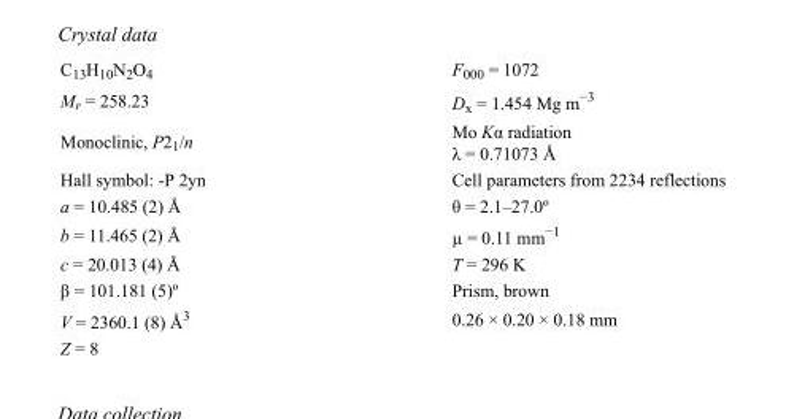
<table><tbody><tr><td>C<sub>13</sub>H<sub>10</sub>N<sub>2</sub>O<sub>4</sub></td><td>F000 = 1072</td></tr><tr><td>M<sub>r</sub> = 258.23</td><td>D<sub>x</sub> = 1.454 Mg m<sup>−3</sup></td></tr><tr><td>Monoclinic, P2<sub>1</sub>/n</td><td>Mo Kα radiation λ = 0.71073 Å</td></tr><tr><td>Hall symbol: -P 2yn</td><td>Cell parameters from 2234 reflections</td></tr><tr><td>a = 10.485 (2) Å</td><td>θ = 2.1–27.0º</td></tr><tr><td>b = 11.465 (2) Å</td><td>µ = 0.11 mm<sup>−1</sup></td></tr><tr><td>c = 20.013 (4) Å</td><td>T = 296 K</td></tr><tr><td>β = 101.181 (5)º</td><td>Prism, brown</td></tr><tr><td>V = 2360.1 (8) Å<sup>3</sup></td><td>0.26 × 0.20 × 0.18 mm</td></tr><tr><td>Z = 8</td><td></td></tr></tbody></table>